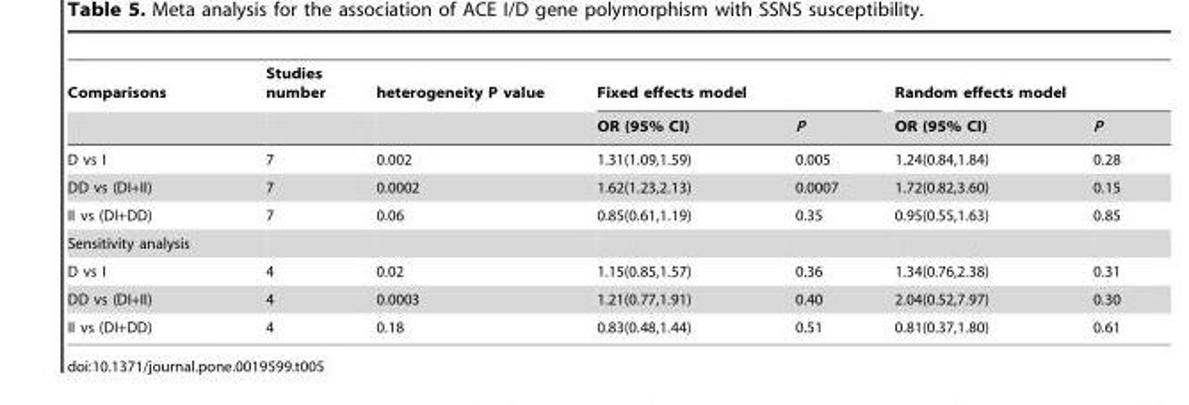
<table><thead><tr><td rowspan="2">Comparisons</td><td rowspan="2">Studies number</td><td rowspan="2">heterogeneity P value</td><td colspan="2">Fixed effects model</td><td colspan="2">Random effects model</td></tr><tr><td>OR (95% CI)</td><td>P</td><td>OR (95% CI)</td><td>P</td></tr></thead><tbody><tr><td>D vs I</td><td>7</td><td>0.002</td><td>1.31(1.09,1.59)</td><td>0.005</td><td>1.24(0.84,1.84)</td><td>0.28</td></tr><tr><td>DD vs (DI+II)</td><td>7</td><td>0.0002</td><td>1.62(1.23,2.13)</td><td>0.0007</td><td>1.72(0.82,3.60)</td><td>0.15</td></tr><tr><td>II vs (DI+DD)</td><td>7</td><td>0.06</td><td>0.85(0.61,1.19)</td><td>0.35</td><td>0.95(0.55,1.63)</td><td>0.85</td></tr><tr><td colspan="7">Sensitivity analysis</td></tr><tr><td>D vs I</td><td>4</td><td>0.02</td><td>1.15(0.85,1.57)</td><td>0.36</td><td>1.34(0.76,2.38)</td><td>0.31</td></tr><tr><td>DD vs (DI+II)</td><td>4</td><td>0.0003</td><td>1.21(0.77,1.91)</td><td>0.40</td><td>2.04(0.52,7.97)</td><td>0.30</td></tr><tr><td>II vs (DI+DD)</td><td>4</td><td>0.18</td><td>0.83(0.48,1.44)</td><td>0.51</td><td>0.81(0.37,1.80)</td><td>0.61</td></tr></tbody></table>